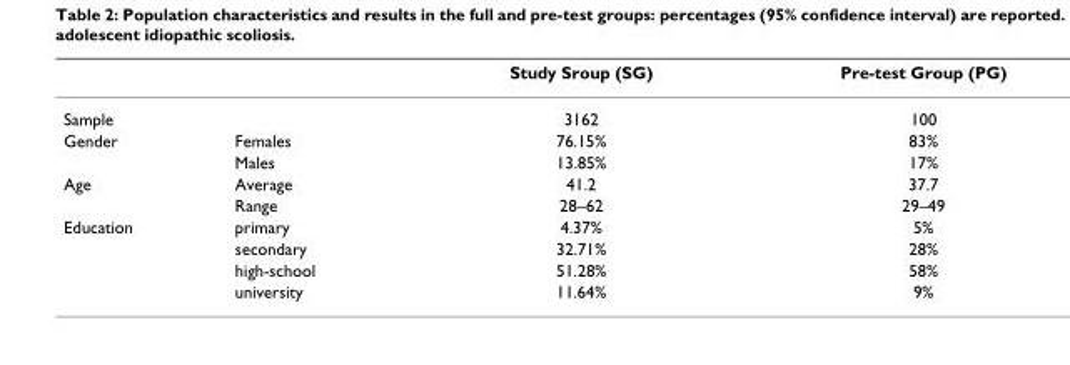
<table><thead><tr><td></td><td></td><td>Study Sroup (SG)</td><td>Pre-test Group (PG)</td></tr></thead><tbody><tr><td>Sample</td><td></td><td>3162</td><td>100</td></tr><tr><td rowspan="2">Gender</td><td>Females</td><td>76.15%</td><td>83%</td></tr><tr><td>Males</td><td>13.85%</td><td>17%</td></tr><tr><td rowspan="2">Age</td><td>Average</td><td>41.2</td><td>37.7</td></tr><tr><td>Range</td><td>28–62</td><td>29–49</td></tr><tr><td rowspan="4">Education</td><td>primary</td><td>4.37%</td><td>5%</td></tr><tr><td>secondary</td><td>32.71%</td><td>28%</td></tr><tr><td>high-school</td><td>51.28%</td><td>58%</td></tr><tr><td>university</td><td>11.64%</td><td>9%</td></tr></tbody></table>